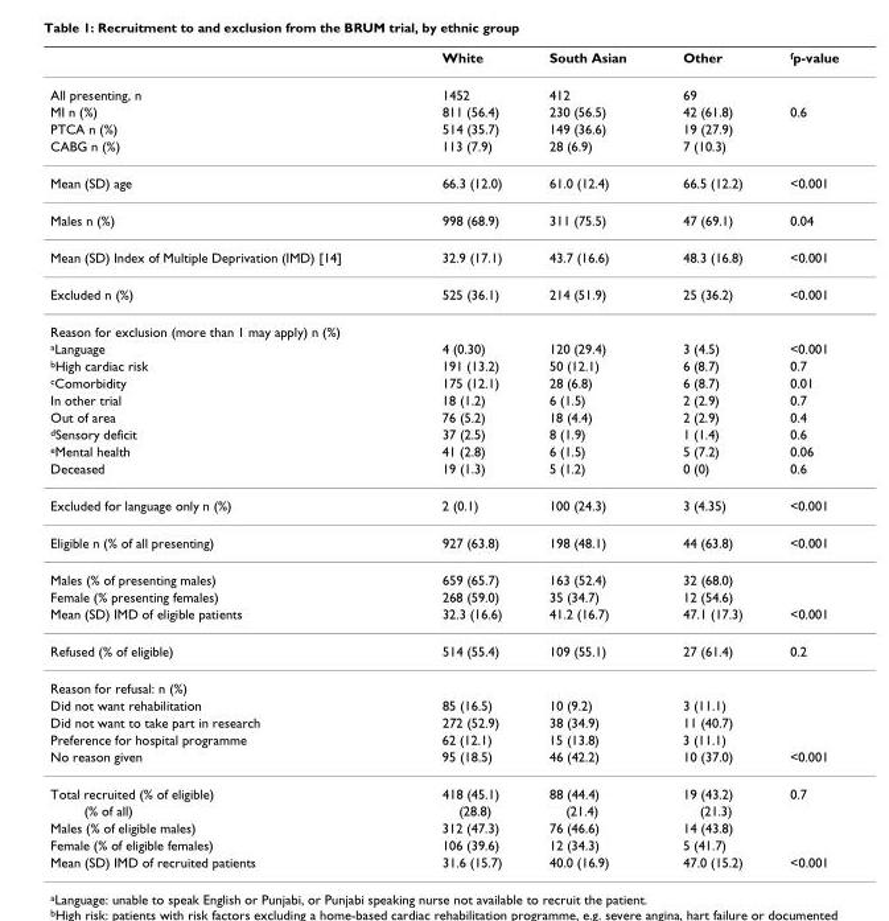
<table><thead><tr><td></td><td>White</td><td>South Asian</td><td>Other</td><td><sup>f</sup>p-value</td></tr></thead><tbody><tr><td>All presenting, n</td><td>1452</td><td>412</td><td>69</td><td></td></tr><tr><td>MI n (%)</td><td>811 (56.4)</td><td>230 (56.5)</td><td>42 (61.8)</td><td>0.6</td></tr><tr><td>PTCA n (%)</td><td>514 (35.7)</td><td>149 (36.6)</td><td>19 (27.9)</td><td></td></tr><tr><td>CABG n (%)</td><td>113 (7.9)</td><td>28 (6.9)</td><td>7 (10.3)</td><td></td></tr><tr><td>Mean (SD) age</td><td>66.3 (12.0)</td><td>61.0 (12.4)</td><td>66.5 (12.2)</td><td>&lt;0.001</td></tr><tr><td>Males n (%)</td><td>998 (68.9)</td><td>311 (75.5)</td><td>47 (69.1)</td><td>0.04</td></tr><tr><td>Mean (SD) Index of Multiple Deprivation (IMD) [14]</td><td>32.9 (17.1)</td><td>43.7 (16.6)</td><td>48.3 (16.8)</td><td>&lt;0.001</td></tr><tr><td>Excluded n (%)</td><td>525 (36.1)</td><td>214 (51.9)</td><td>25 (36.2)</td><td>&lt;0.001</td></tr><tr><td colspan="5">Reason for exclusion (more than 1 may apply) n (%)</td></tr><tr><td><sup>a</sup>Language</td><td>4 (0.30)</td><td>120 (29.4)</td><td>3 (4.5)</td><td>&lt;0.001</td></tr><tr><td><sup>b</sup>High cardiac risk</td><td>191 (13.2)</td><td>50 (12.1)</td><td>6 (8.7)</td><td>0.7</td></tr><tr><td><sup>c</sup>Comorbidity</td><td>175 (12.1)</td><td>28 (6.8)</td><td>6 (8.7)</td><td>0.01</td></tr><tr><td>In other trial</td><td>18 (1.2)</td><td>6 (1.5)</td><td>2 (2.9)</td><td>0.7</td></tr><tr><td>Out of area</td><td>76 (5.2)</td><td>18 (4.4)</td><td>2 (2.9)</td><td>0.4</td></tr><tr><td><sup>d</sup>Sensory deficit</td><td>37 (2.5)</td><td>8 (1.9)</td><td>1 (1.4)</td><td>0.6</td></tr><tr><td><sup>e</sup>Mental health</td><td>41 (2.8)</td><td>6 (1.5)</td><td>5 (7.2)</td><td>0.06</td></tr><tr><td>Deceased</td><td>19 (1.3)</td><td>5 (1.2)</td><td>0 (0)</td><td>0.6</td></tr><tr><td>Excluded for language only n (%)</td><td>2 (0.1)</td><td>100 (24.3)</td><td>3 (4.35)</td><td>&lt;0.001</td></tr><tr><td>Eligible n (% of all presenting)</td><td>927 (63.8)</td><td>198 (48.1)</td><td>44 (63.8)</td><td>&lt;0.001</td></tr><tr><td>Males (% of presenting males)</td><td>659 (65.7)</td><td>163 (52.4)</td><td>32 (68.0)</td><td></td></tr><tr><td>Female (% presenting females)</td><td>268 (59.0)</td><td>35 (34.7)</td><td>12 (54.6)</td><td></td></tr><tr><td>Mean (SD) IMD of eligible patients</td><td>32.3 (16.6)</td><td>41.2 (16.7)</td><td>47.1 (17.3)</td><td>&lt;0.001</td></tr><tr><td>Refused (% of eligible)</td><td>514 (55.4)</td><td>109 (55.1)</td><td>27 (61.4)</td><td>0.2</td></tr><tr><td colspan="5">Reason for refusal: n (%)</td></tr><tr><td>Did not want rehabilitation</td><td>85 (16.5)</td><td>10 (9.2)</td><td>3 (11.1)</td><td></td></tr><tr><td>Did not want to take part in research</td><td>272 (52.9)</td><td>38 (34.9)</td><td>11 (40.7)</td><td></td></tr><tr><td>Preference for hospital programme</td><td>62 (12.1)</td><td>15 (13.8)</td><td>3 (11.1)</td><td></td></tr><tr><td>No reason given</td><td>95 (18.5)</td><td>46 (42.2)</td><td>10 (37.0)</td><td>&lt;0.001</td></tr><tr><td>Total recruited (% of eligible)</td><td>418 (45.1)</td><td>88 (44.4)</td><td>19 (43.2)</td><td>0.7</td></tr><tr><td>(% of all)</td><td>(28.8)</td><td>(21.4)</td><td>(21.3)</td><td></td></tr><tr><td>Males (% of eligible males)</td><td>312 (47.3)</td><td>76 (46.6)</td><td>14 (43.8)</td><td></td></tr><tr><td>Female (% of eligible females)</td><td>106 (39.6)</td><td>12 (34.3)</td><td>5 (41.7)</td><td></td></tr><tr><td>Mean (SD) IMD of recruited patients</td><td>31.6 (15.7)</td><td>40.0 (16.9)</td><td>47.0 (15.2)</td><td>&lt;0.001</td></tr></tbody></table>